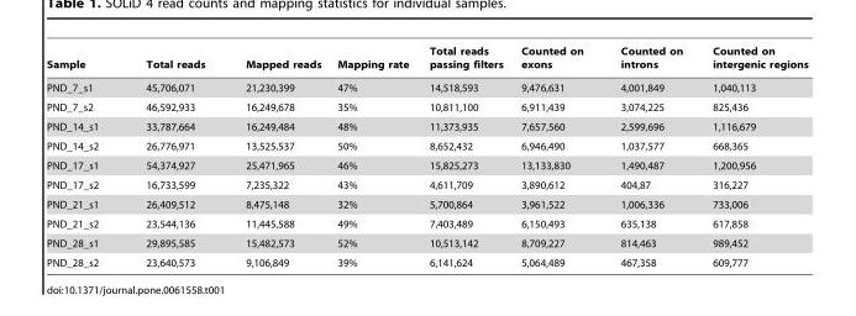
<table><thead><tr><td>Sample</td><td>Total reads</td><td>Mapped reads</td><td>Mapping rate</td><td>Total reads passing filters</td><td>Counted on exons</td><td>Counted on introns</td><td>Counted on intergenic regions</td></tr></thead><tbody><tr><td>PND_7_s1</td><td>45,706,071</td><td>21,230,399</td><td>47%</td><td>14,518,593</td><td>9,476,631</td><td>4,001,849</td><td>1,040,113</td></tr><tr><td>PND_7_s2</td><td>46,592,933</td><td>16,249,678</td><td>35%</td><td>10,811,100</td><td>6,911,439</td><td>3,074,225</td><td>825,436</td></tr><tr><td>PND_14_s1</td><td>33,787,664</td><td>16,249,484</td><td>48%</td><td>11,373,935</td><td>7,657,560</td><td>2,599,696</td><td>1,116,679</td></tr><tr><td>PND_14_s2</td><td>26,776,971</td><td>13,525,537</td><td>50%</td><td>8,652,432</td><td>6,946,490</td><td>1,037,577</td><td>668,365</td></tr><tr><td>PND_17_s1</td><td>54,374,927</td><td>25,471,965</td><td>46%</td><td>15,825,273</td><td>13,133,830</td><td>1,490,487</td><td>1,200,956</td></tr><tr><td>PND_17_s2</td><td>16,733,599</td><td>7,235,322</td><td>43%</td><td>4,611,709</td><td>3,890,612</td><td>404,87</td><td>316,227</td></tr><tr><td>PND_21_s1</td><td>26,409,512</td><td>8,475,148</td><td>32%</td><td>5,700,864</td><td>3,961,522</td><td>1,006,336</td><td>733,006</td></tr><tr><td>PND_21_s2</td><td>23,544,136</td><td>11,445,588</td><td>49%</td><td>7,403,489</td><td>6,150,493</td><td>635,138</td><td>617,858</td></tr><tr><td>PND_28_s1</td><td>29,895,585</td><td>15,482,573</td><td>52%</td><td>10,513,142</td><td>8,709,227</td><td>814,463</td><td>989,452</td></tr><tr><td>PND_28_s2</td><td>23,640,573</td><td>9,106,849</td><td>39%</td><td>6,141,624</td><td>5,064,489</td><td>467,358</td><td>609,777</td></tr></tbody></table>